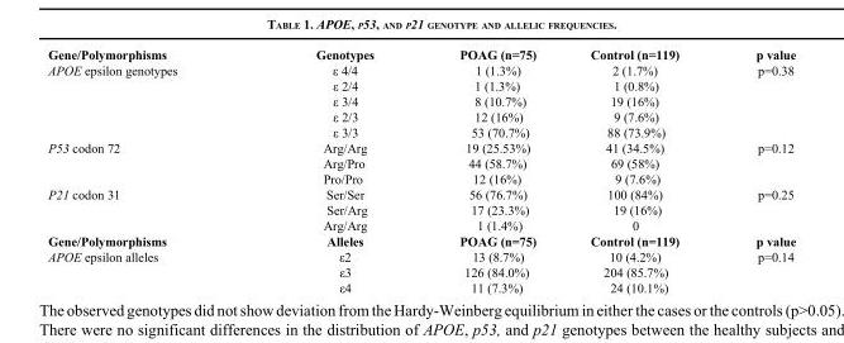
<table><thead><tr><td>Gene/Polymorphisms</td><td>Genotypes</td><td>POAG (n=75)</td><td>Control (n=119)</td><td>p value</td></tr></thead><tbody><tr><td rowspan="5">APOE epsilon genotypes</td><td>ε 4/4</td><td>1 (1.3%)</td><td>2 (1.7%)</td><td rowspan="5">p=0.38</td></tr><tr><td>ε 2/4</td><td>1 (1.3%)</td><td>1 (0.8%)</td></tr><tr><td>ε 3/4</td><td>8 (10.7%)</td><td>19 (16%)</td></tr><tr><td>ε 2/3</td><td>12 (16%)</td><td>9 (7.6%)</td></tr><tr><td>ε 3/3</td><td>53 (70.7%)</td><td>88 (73.9%)</td></tr><tr><td rowspan="3">P53 codon 72</td><td>Arg/Arg</td><td>19 (25.53%)</td><td>41 (34.5%)</td><td rowspan="3">p=0.12</td></tr><tr><td>Arg/Pro</td><td>44 (58.7%)</td><td>69 (58%)</td></tr><tr><td>Pro/Pro</td><td>12 (16%)</td><td>9 (7.6%)</td></tr><tr><td rowspan="3">P21 codon 31</td><td>Ser/Ser</td><td>56 (76.7%)</td><td>100 (84%)</td><td rowspan="3">p=0.25</td></tr><tr><td>Ser/Arg</td><td>17 (23.3%)</td><td>19 (16%)</td></tr><tr><td>Arg/Arg</td><td>1 (1.4%)</td><td>0</td></tr><tr><td>Gene/Polymorphisms</td><td>Alleles</td><td>POAG (n=75)</td><td>Control (n=119)</td><td>p value</td></tr><tr><td rowspan="3">APOE epsilon alleles</td><td>ε2</td><td>13 (8.7%)</td><td>10 (4.2%)</td><td rowspan="3">p=0.14</td></tr><tr><td>ε3</td><td>126 (84.0%)</td><td>204 (85.7%)</td></tr><tr><td>ε4</td><td>11 (7.3%)</td><td>24 (10.1%)</td></tr></tbody></table>